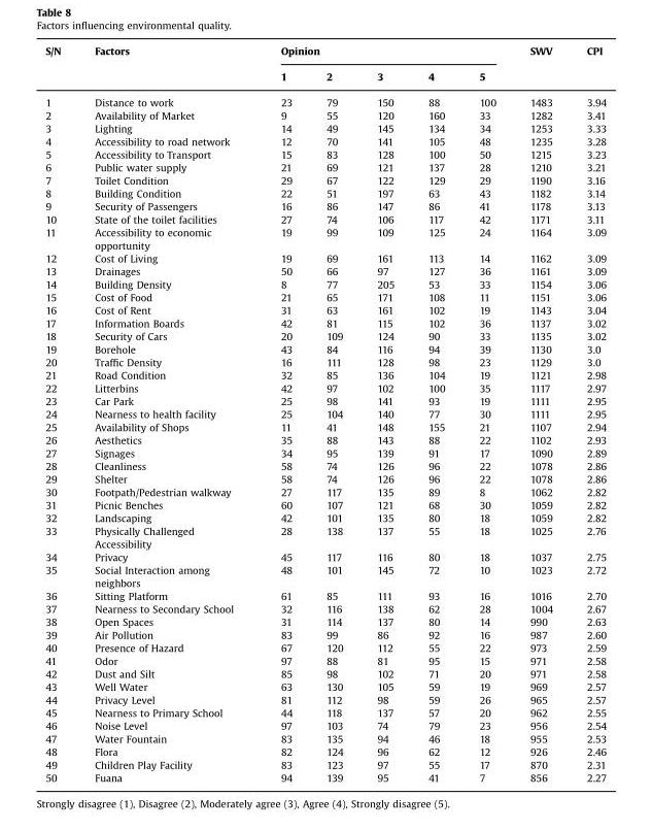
<table><thead><tr><td rowspan="2">S/N</td><td rowspan="2">Factors</td><td colspan="5">Opinion</td><td rowspan="2">SWV</td><td rowspan="2">CPI</td></tr><tr><td>1</td><td>2</td><td>3</td><td>4</td><td>5</td></tr></thead><tbody><tr><td>1</td><td>Distance to work</td><td>23</td><td>79</td><td>150</td><td>88</td><td>100</td><td>1483</td><td>3.94</td></tr><tr><td>2</td><td>Availability of Market</td><td>9</td><td>55</td><td>120</td><td>160</td><td>33</td><td>1282</td><td>3.41</td></tr><tr><td>3</td><td>Lighting</td><td>14</td><td>49</td><td>145</td><td>134</td><td>34</td><td>1253</td><td>3.33</td></tr><tr><td>4</td><td>Accessibility to road network</td><td>12</td><td>70</td><td>141</td><td>105</td><td>48</td><td>1235</td><td>3.28</td></tr><tr><td>5</td><td>Accessibility to Transport</td><td>15</td><td>83</td><td>128</td><td>100</td><td>50</td><td>1215</td><td>3.23</td></tr><tr><td>6</td><td>Public water supply</td><td>21</td><td>69</td><td>121</td><td>137</td><td>28</td><td>1210</td><td>3.21</td></tr><tr><td>7</td><td>Toilet Condition</td><td>29</td><td>67</td><td>122</td><td>129</td><td>29</td><td>1190</td><td>3.16</td></tr><tr><td>8</td><td>Building Condition</td><td>22</td><td>51</td><td>197</td><td>63</td><td>43</td><td>1182</td><td>3.14</td></tr><tr><td>9</td><td>Security of Passengers</td><td>16</td><td>86</td><td>147</td><td>86</td><td>41</td><td>1178</td><td>3.13</td></tr><tr><td>10</td><td>State of the toilet facilities</td><td>27</td><td>74</td><td>106</td><td>117</td><td>42</td><td>1171</td><td>3.11</td></tr><tr><td>11</td><td>Accessibility to economic opportunity</td><td>19</td><td>99</td><td>109</td><td>125</td><td>24</td><td>1164</td><td>3.09</td></tr><tr><td>12</td><td>Cost of Living</td><td>19</td><td>69</td><td>161</td><td>113</td><td>14</td><td>1162</td><td>3.09</td></tr><tr><td>13</td><td>Drainages</td><td>50</td><td>66</td><td>97</td><td>127</td><td>36</td><td>1161</td><td>3.09</td></tr><tr><td>14</td><td>Building Density</td><td>8</td><td>77</td><td>205</td><td>53</td><td>33</td><td>1154</td><td>3.06</td></tr><tr><td>15</td><td>Cost of Food</td><td>21</td><td>65</td><td>171</td><td>108</td><td>11</td><td>1151</td><td>3.06</td></tr><tr><td>16</td><td>Cost of Rent</td><td>31</td><td>63</td><td>161</td><td>102</td><td>19</td><td>1143</td><td>3.04</td></tr><tr><td>17</td><td>Information Boards</td><td>42</td><td>81</td><td>115</td><td>102</td><td>36</td><td>1137</td><td>3.02</td></tr><tr><td>18</td><td>Security of Cars</td><td>20</td><td>109</td><td>124</td><td>90</td><td>33</td><td>1135</td><td>3.02</td></tr><tr><td>19</td><td>Borehole</td><td>43</td><td>84</td><td>116</td><td>94</td><td>39</td><td>1130</td><td>3.0</td></tr><tr><td>20</td><td>Traffic Density</td><td>16</td><td>111</td><td>128</td><td>98</td><td>23</td><td>1129</td><td>3.0</td></tr><tr><td>21</td><td>Road Condition</td><td>32</td><td>85</td><td>136</td><td>104</td><td>19</td><td>1121</td><td>2.98</td></tr><tr><td>22</td><td>Litterbins</td><td>42</td><td>97</td><td>102</td><td>100</td><td>35</td><td>1117</td><td>2.97</td></tr><tr><td>23</td><td>Car Park</td><td>25</td><td>98</td><td>141</td><td>93</td><td>19</td><td>1111</td><td>2.95</td></tr><tr><td>24</td><td>Nearness to health facility</td><td>25</td><td>104</td><td>140</td><td>77</td><td>30</td><td>1111</td><td>2.95</td></tr><tr><td>25</td><td>Availability of Shops</td><td>11</td><td>41</td><td>148</td><td>155</td><td>21</td><td>1107</td><td>2.94</td></tr><tr><td>26</td><td>Aesthetics</td><td>35</td><td>88</td><td>143</td><td>88</td><td>22</td><td>1102</td><td>2.93</td></tr><tr><td>27</td><td>Signages</td><td>34</td><td>95</td><td>139</td><td>91</td><td>17</td><td>1090</td><td>2.89</td></tr><tr><td>28</td><td>Cleanliness</td><td>58</td><td>74</td><td>126</td><td>96</td><td>22</td><td>1078</td><td>2.86</td></tr><tr><td>29</td><td>Shelter</td><td>58</td><td>74</td><td>126</td><td>96</td><td>22</td><td>1078</td><td>2.86</td></tr><tr><td>30</td><td>Footpath/Pedestrian walkway</td><td>27</td><td>117</td><td>135</td><td>89</td><td>8</td><td>1062</td><td>2.82</td></tr><tr><td>31</td><td>Picnic Benches</td><td>60</td><td>107</td><td>121</td><td>68</td><td>30</td><td>1059</td><td>2.82</td></tr><tr><td>32</td><td>Landscaping</td><td>42</td><td>101</td><td>135</td><td>80</td><td>18</td><td>1059</td><td>2.82</td></tr><tr><td>33</td><td>Physically Challenged Accessibility</td><td>28</td><td>138</td><td>137</td><td>55</td><td>18</td><td>1025</td><td>2.76</td></tr><tr><td>34</td><td>Privacy</td><td>45</td><td>117</td><td>116</td><td>80</td><td>18</td><td>1037</td><td>2.75</td></tr><tr><td>35</td><td>Social Interaction among neighbors</td><td>48</td><td>101</td><td>145</td><td>72</td><td>10</td><td>1023</td><td>2.72</td></tr><tr><td>36</td><td>Sitting Platform</td><td>61</td><td>85</td><td>111</td><td>93</td><td>16</td><td>1016</td><td>2.70</td></tr><tr><td>37</td><td>Nearness to Secondary School</td><td>32</td><td>116</td><td>138</td><td>62</td><td>28</td><td>1004</td><td>2.67</td></tr><tr><td>38</td><td>Open Spaces</td><td>31</td><td>114</td><td>137</td><td>80</td><td>14</td><td>990</td><td>2.63</td></tr><tr><td>39</td><td>Air Pollution</td><td>83</td><td>99</td><td>86</td><td>92</td><td>16</td><td>987</td><td>2.60</td></tr><tr><td>40</td><td>Presence of Hazard</td><td>67</td><td>120</td><td>112</td><td>55</td><td>22</td><td>973</td><td>2.59</td></tr><tr><td>41</td><td>Odor</td><td>97</td><td>88</td><td>81</td><td>95</td><td>15</td><td>971</td><td>2.58</td></tr><tr><td>42</td><td>Dust and Silt</td><td>85</td><td>98</td><td>102</td><td>71</td><td>20</td><td>971</td><td>2.58</td></tr><tr><td>43</td><td>Well Water</td><td>63</td><td>130</td><td>105</td><td>59</td><td>19</td><td>969</td><td>2.57</td></tr><tr><td>44</td><td>Privacy Level</td><td>81</td><td>112</td><td>98</td><td>59</td><td>26</td><td>965</td><td>2.57</td></tr><tr><td>45</td><td>Nearness to Primary School</td><td>44</td><td>118</td><td>137</td><td>57</td><td>20</td><td>962</td><td>2.55</td></tr><tr><td>46</td><td>Noise Level</td><td>97</td><td>103</td><td>74</td><td>79</td><td>23</td><td>956</td><td>2.54</td></tr><tr><td>47</td><td>Water Fountain</td><td>83</td><td>135</td><td>94</td><td>46</td><td>18</td><td>955</td><td>2.53</td></tr><tr><td>48</td><td>Flora</td><td>82</td><td>124</td><td>96</td><td>62</td><td>12</td><td>926</td><td>2.46</td></tr><tr><td>49</td><td>Children Play Facility</td><td>83</td><td>123</td><td>97</td><td>55</td><td>17</td><td>870</td><td>2.31</td></tr><tr><td>50</td><td>Fuana</td><td>94</td><td>139</td><td>95</td><td>41</td><td>7</td><td>856</td><td>2.27</td></tr></tbody></table>